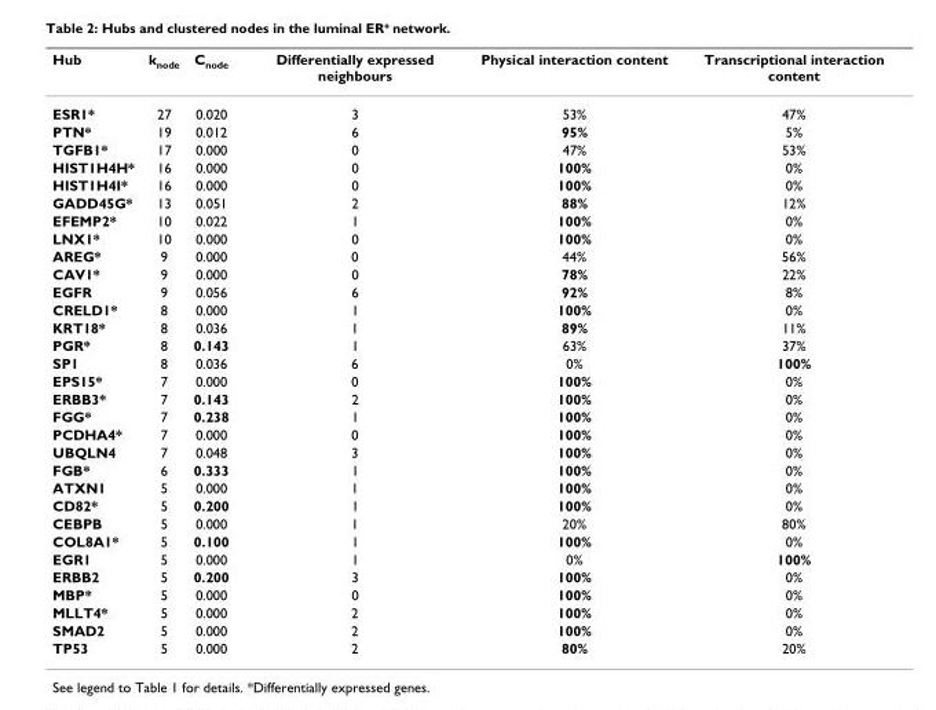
<table><thead><tr><td>Hub</td><td>k<sub>node</sub></td><td>C<sub>node</sub></td><td>Differentially expressed neighbours</td><td>Physical interaction content</td><td>Transcriptional interaction content</td></tr></thead><tbody><tr><td>ESR1*</td><td>27</td><td>0.020</td><td>3</td><td>53%</td><td>47%</td></tr><tr><td>PTN*</td><td>19</td><td>0.012</td><td>6</td><td>95%</td><td>5%</td></tr><tr><td>TGFB1*</td><td>17</td><td>0.000</td><td>0</td><td>47%</td><td>53%</td></tr><tr><td>HIST1H4H*</td><td>16</td><td>0.000</td><td>0</td><td>100%</td><td>0%</td></tr><tr><td>HIST1H4I*</td><td>16</td><td>0.000</td><td>0</td><td>100%</td><td>0%</td></tr><tr><td>GADD45G*</td><td>13</td><td>0.051</td><td>2</td><td>88%</td><td>12%</td></tr><tr><td>EFEMP2*</td><td>10</td><td>0.022</td><td>1</td><td>100%</td><td>0%</td></tr><tr><td>LNX1*</td><td>10</td><td>0.000</td><td>0</td><td>100%</td><td>0%</td></tr><tr><td>AREG*</td><td>9</td><td>0.000</td><td>0</td><td>44%</td><td>56%</td></tr><tr><td>CAV1*</td><td>9</td><td>0.000</td><td>0</td><td>78%</td><td>22%</td></tr><tr><td>EGFR</td><td>9</td><td>0.056</td><td>6</td><td>92%</td><td>8%</td></tr><tr><td>CRELD1*</td><td>8</td><td>0.000</td><td>1</td><td>100%</td><td>0%</td></tr><tr><td>KRT18*</td><td>8</td><td>0.036</td><td>1</td><td>89%</td><td>11%</td></tr><tr><td>PGR*</td><td>8</td><td>0.143</td><td>1</td><td>63%</td><td>37%</td></tr><tr><td>SP1</td><td>8</td><td>0.036</td><td>6</td><td>0%</td><td>100%</td></tr><tr><td>EPS15*</td><td>7</td><td>0.000</td><td>0</td><td>100%</td><td>0%</td></tr><tr><td>ERBB3*</td><td>7</td><td>0.143</td><td>2</td><td>100%</td><td>0%</td></tr><tr><td>FGG*</td><td>7</td><td>0.238</td><td>1</td><td>100%</td><td>0%</td></tr><tr><td>PCDHA4*</td><td>7</td><td>0.000</td><td>0</td><td>100%</td><td>0%</td></tr><tr><td>UBQLN4</td><td>7</td><td>0.048</td><td>3</td><td>100%</td><td>0%</td></tr><tr><td>FGB*</td><td>6</td><td>0.333</td><td>1</td><td>100%</td><td>0%</td></tr><tr><td>ATXN1</td><td>5</td><td>0.000</td><td>1</td><td>100%</td><td>0%</td></tr><tr><td>CD82*</td><td>5</td><td>0.200</td><td>1</td><td>100%</td><td>0%</td></tr><tr><td>CEBPB</td><td>5</td><td>0.000</td><td>1</td><td>20%</td><td>80%</td></tr><tr><td>COL8A1*</td><td>5</td><td>0.100</td><td>1</td><td>100%</td><td>0%</td></tr><tr><td>EGR1</td><td>5</td><td>0.000</td><td>1</td><td>0%</td><td>100%</td></tr><tr><td>ERBB2</td><td>5</td><td>0.200</td><td>3</td><td>100%</td><td>0%</td></tr><tr><td>MBP*</td><td>5</td><td>0.000</td><td>0</td><td>100%</td><td>0%</td></tr><tr><td>MLLT4*</td><td>5</td><td>0.000</td><td>2</td><td>100%</td><td>0%</td></tr><tr><td>SMAD2</td><td>5</td><td>0.000</td><td>2</td><td>100%</td><td>0%</td></tr><tr><td>TP53</td><td>5</td><td>0.000</td><td>2</td><td>80%</td><td>20%</td></tr></tbody></table>